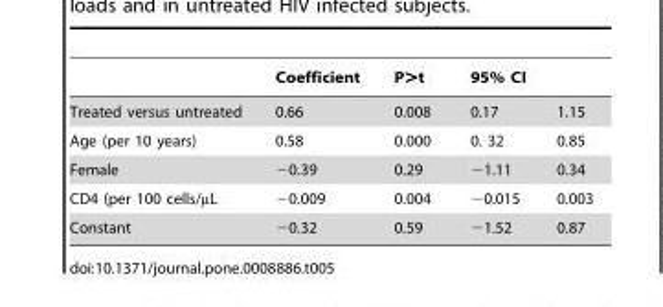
<table><thead><tr><td rowspan="2">Treated versus untreated</td><td rowspan="2">Coefficient 0.66</td><td rowspan="2">P&gt;t 0.008</td><td colspan="2">95% CI</td></tr><tr><td>0.17</td><td>1.15</td></tr></thead><tbody><tr><td>Age (per 10 years)</td><td>0.58</td><td>0.000</td><td>0. 32</td><td>0.85</td></tr><tr><td>Female</td><td>−0.39</td><td>0.29</td><td>−1.11</td><td>0.34</td></tr><tr><td>CD4 (per 100 cells/µL</td><td>−0.009</td><td>0.004</td><td>−0.015</td><td>0.003</td></tr><tr><td>Constant</td><td>−0.32</td><td>0.59</td><td>−1.52</td><td>0.87</td></tr></tbody></table>